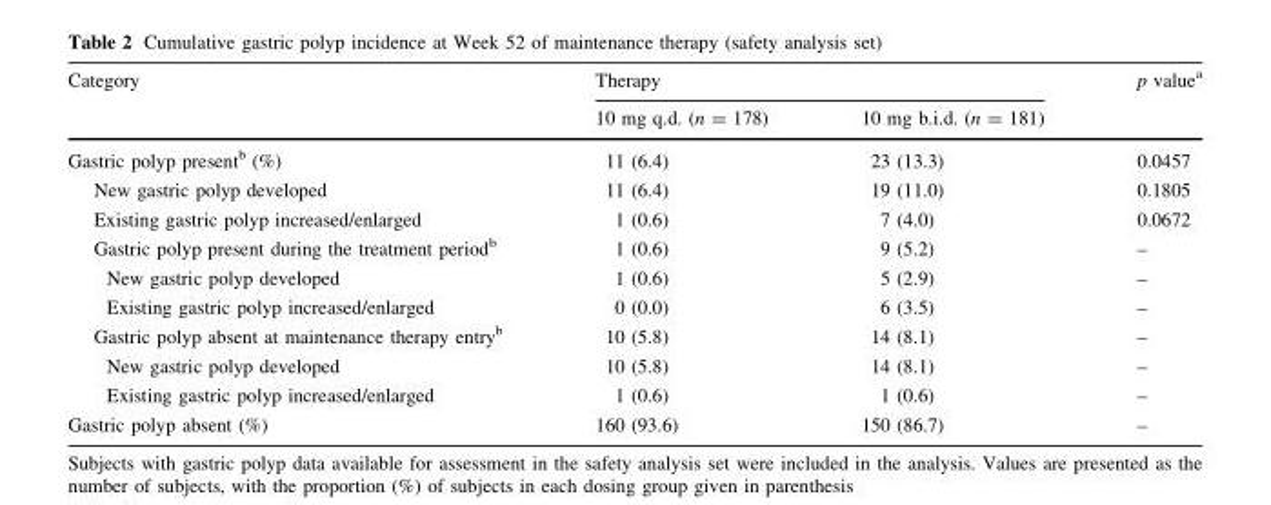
<table><thead><tr><td rowspan="2">Category</td><td colspan="2">Therapy</td><td rowspan="2">p value<sup>a</sup></td></tr><tr><td>10 mg q.d. (n = 178)</td><td>10 mg b.i.d. (n = 181)</td></tr></thead><tbody><tr><td>Gastric polyp present<sup>b</sup> (%)</td><td>11 (6.4)</td><td>23 (13.3)</td><td>0.0457</td></tr><tr><td>New gastric polyp developed</td><td>11 (6.4)</td><td>19 (11.0)</td><td>0.1805</td></tr><tr><td>Existing gastric polyp increased/enlarged</td><td>1 (0.6)</td><td>7 (4.0)</td><td>0.0672</td></tr><tr><td>Gastric polyp present during the treatment period<sup>b</sup></td><td>1 (0.6)</td><td>9 (5.2)</td><td>–</td></tr><tr><td>New gastric polyp developed</td><td>1 (0.6)</td><td>5 (2.9)</td><td>–</td></tr><tr><td>Existing gastric polyp increased/enlarged</td><td>0 (0.0)</td><td>6 (3.5)</td><td>–</td></tr><tr><td>Gastric polyp absent at maintenance therapy entry<sup>b</sup></td><td>10 (5.8)</td><td>14 (8.1)</td><td>–</td></tr><tr><td>New gastric polyp developed</td><td>10 (5.8)</td><td>14 (8.1)</td><td>–</td></tr><tr><td>Existing gastric polyp increased/enlarged</td><td>1 (0.6)</td><td>1 (0.6)</td><td>–</td></tr><tr><td>Gastric polyp absent (%)</td><td>160 (93.6)</td><td>150 (86.7)</td><td>–</td></tr></tbody></table>